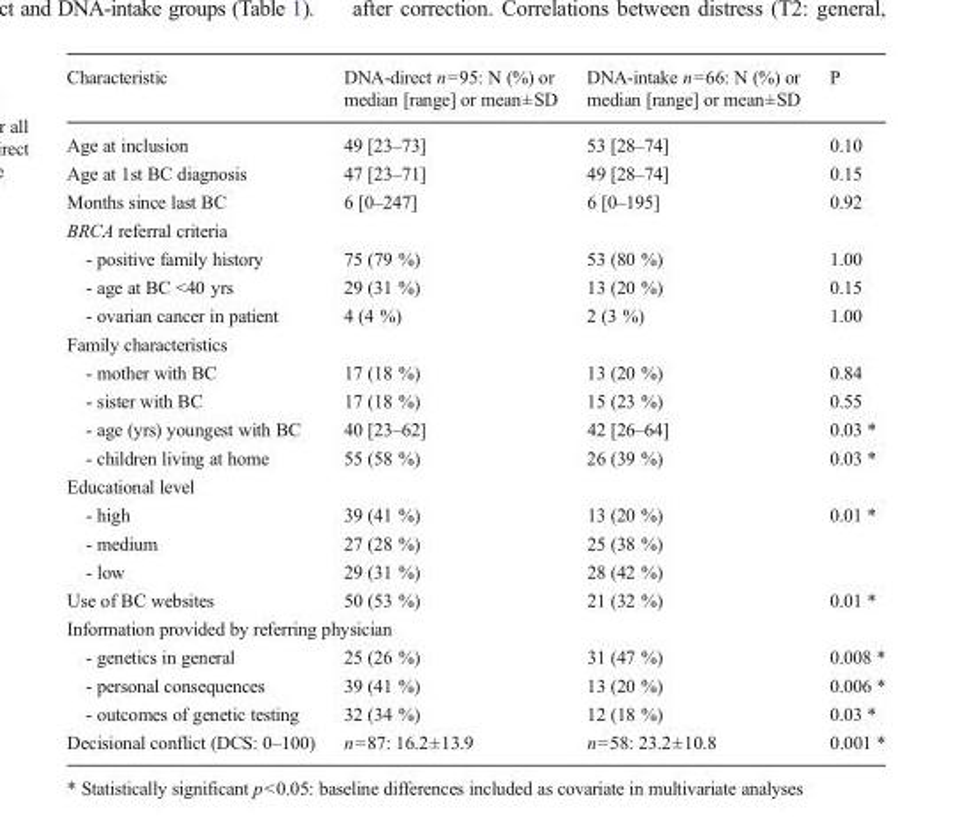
<table><thead><tr><td>Characteristic</td><td>DNA-direct n=95: N (%) or median [range] or mean±SD</td><td>DNA-intake n=66: N (%) or median [range] or mean±SD</td><td>P</td></tr></thead><tbody><tr><td>Age at inclusion</td><td>49 [23–73]</td><td>53 [28–74]</td><td>0.10</td></tr><tr><td>Age at 1st BC diagnosis</td><td>47 [23–71]</td><td>49 [28–74]</td><td>0.15</td></tr><tr><td>Months since last BC</td><td>6 [0–247]</td><td>6 [0–195]</td><td>0.92</td></tr><tr><td colspan="4">BRCA referral criteria</td></tr><tr><td>- positive family history</td><td>75 (79 %)</td><td>53 (80 %)</td><td>1.00</td></tr><tr><td>- age at BC &lt;40 yrs</td><td>29 (31 %)</td><td>13 (20 %)</td><td>0.15</td></tr><tr><td>- ovarian cancer in patient</td><td>4 (4 %)</td><td>2 (3 %)</td><td>1.00</td></tr><tr><td colspan="4">Family characteristics</td></tr><tr><td>- mother with BC</td><td>17 (18 %)</td><td>13 (20 %)</td><td>0.84</td></tr><tr><td>- sister with BC</td><td>17 (18 %)</td><td>15 (23 %)</td><td>0.55</td></tr><tr><td>- age (yrs) youngest with BC</td><td>40 [23–62]</td><td>42 [26–64]</td><td>0.03 *</td></tr><tr><td>- children living at home</td><td>55 (58 %)</td><td>26 (39 %)</td><td>0.03 *</td></tr><tr><td colspan="4">Educational level</td></tr><tr><td>- high</td><td>39 (41 %)</td><td>13 (20 %)</td><td>0.01 *</td></tr><tr><td>- medium</td><td>27 (28 %)</td><td>25 (38 %)</td><td></td></tr><tr><td>- low</td><td>29 (31 %)</td><td>28 (42 %)</td><td></td></tr><tr><td>Use of BC websites</td><td>50 (53 %)</td><td>21 (32 %)</td><td>0.01 *</td></tr><tr><td colspan="4">Information provided by referring physician</td></tr><tr><td>- genetics in general</td><td>25 (26 %)</td><td>31 (47 %)</td><td>0.008 *</td></tr><tr><td>- personal consequences</td><td>39 (41 %)</td><td>13 (20 %)</td><td>0.006 *</td></tr><tr><td>- outcomes of genetic testing</td><td>32 (34 %)</td><td>12 (18 %)</td><td>0.03 *</td></tr><tr><td>Decisional conflict (DCS: 0–100)</td><td>n=87: 16.2±13.9</td><td>n=58: 23.2±10.8</td><td>0.001 *</td></tr></tbody></table>